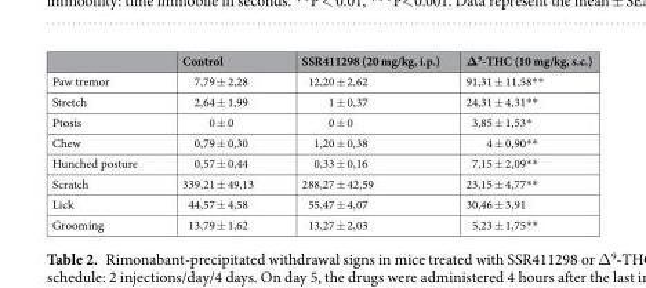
<table><thead><tr><td></td><td>Control</td><td>SSR411298 (20 mg/kg, i.p.)</td><td>Δ<sup>9</sup>-THC (10 mg/kg, s.c.)</td></tr></thead><tbody><tr><td>Paw tremor</td><td>7,79 ± 2,28</td><td>12,20 ± 2,62</td><td>91,31 ± 11,58**</td></tr><tr><td>Stretch</td><td>2,64 ± 1,99</td><td>1 ± 0,37</td><td>24,31 ± 4,31**</td></tr><tr><td>Ptosis</td><td>0 ± 0</td><td>0 ± 0</td><td>3,85 ± 1,53*</td></tr><tr><td>Chew</td><td>0,79 ± 0,30</td><td>1,20 ± 0,38</td><td>4 ± 0,90**</td></tr><tr><td>Hunched posture</td><td>0,57 ± 0,44</td><td>0,33 ± 0,16</td><td>7,15 ± 2,09**</td></tr><tr><td>Scratch</td><td>339,21 ± 49,13</td><td>288,27 ± 42,59</td><td>23,15 ± 4,77**</td></tr><tr><td>Lick</td><td>44,57 ± 4,58</td><td>55,47 ± 4,07</td><td>30,46 ± 3,91</td></tr><tr><td>Grooming</td><td>13,79 ± 1,62</td><td>13,27 ± 2,03</td><td>5,23 ± 1,75**</td></tr></tbody></table>